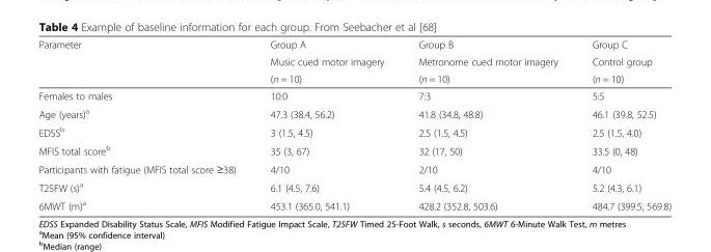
<table><thead><tr><td rowspan="3">Parameter</td><td rowspan="3">Group A Music cued motor imagery (n = 10)</td><td rowspan="3">Group B Metronome cued motor imagery (n = 10)</td><td rowspan="3">Group C Control group (n = 10)</td></tr><tr></tr><tr></tr></thead><tbody><tr><td>Females to males</td><td>10:0</td><td>7:3</td><td>5:5</td></tr><tr><td>Age (years)<sup>a</sup></td><td>47.3 (38.4, 56.2)</td><td>41.8 (34.8, 48.8)</td><td>46.1 (39.8, 52.5)</td></tr><tr><td>EDSS<sup>b</sup></td><td>3 (1.5, 4.5)</td><td>2.5 (1.5, 4.5)</td><td>2.5 (1.5, 4.0)</td></tr><tr><td>MFIS total score<sup>b</sup></td><td>35 (3, 67)</td><td>32 (17, 50)</td><td>33.5 (0, 48)</td></tr><tr><td>Participants with fatigue (MFIS total score ≥38)</td><td>4/10</td><td>2/10</td><td>4/10</td></tr><tr><td>T25FW (s)<sup>a</sup></td><td>6.1 (4.5, 7.6)</td><td>5.4 (4.5, 6.2)</td><td>5.2 (4.3, 6.1)</td></tr><tr><td>6MWT (m)<sup>a</sup></td><td>453.1 (365.0, 541.1)</td><td>428.2 (352.8, 503.6)</td><td>484.7 (399.5, 569.8)</td></tr></tbody></table>